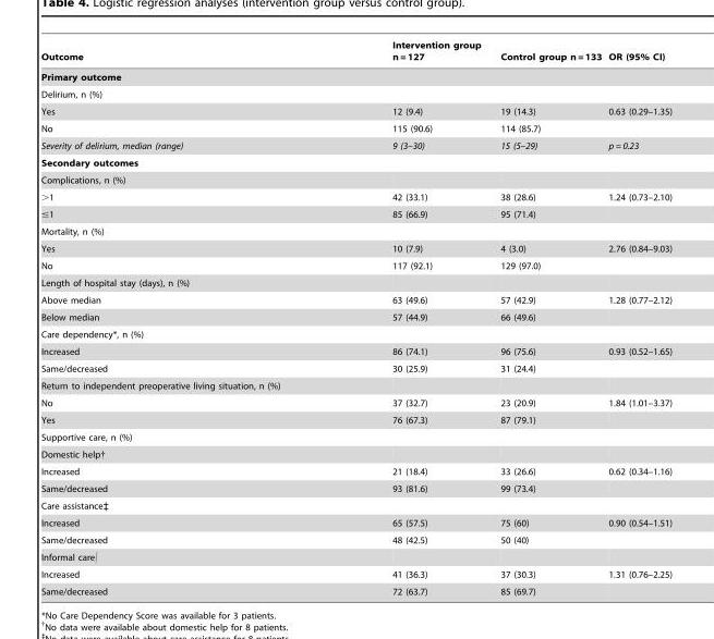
<table><thead><tr><td>Outcome</td><td>Intervention group n = 127</td><td>Control group n = 133</td><td>OR (95% CI)</td></tr></thead><tbody><tr><td colspan="4">Primary outcome</td></tr><tr><td colspan="4">Delirium, n (%)</td></tr><tr><td>Yes</td><td>12 (9.4)</td><td>19 (14.3)</td><td>0.63 (0.29–1.35)</td></tr><tr><td>No</td><td>115 (90.6)</td><td>114 (85.7)</td><td></td></tr><tr><td>Severity of delirium, median (range)</td><td>9 (3–30)</td><td>15 (5–29)</td><td>p = 0.23</td></tr><tr><td colspan="4">Secondary outcomes</td></tr><tr><td colspan="4">Complications, n (%)</td></tr><tr><td>&gt;1</td><td>42 (33.1)</td><td>38 (28.6)</td><td>1.24 (0.73–2.10)</td></tr><tr><td>≤1</td><td>85 (66.9)</td><td>95 (71.4)</td><td></td></tr><tr><td colspan="4">Mortality, n (%)</td></tr><tr><td>Yes</td><td>10 (7.9)</td><td>4 (3.0)</td><td>2.76 (0.84–9.03)</td></tr><tr><td>No</td><td>117 (92.1)</td><td>129 (97.0)</td><td></td></tr><tr><td colspan="4">Length of hospital stay (days), n (%)</td></tr><tr><td>Above median</td><td>63 (49.6)</td><td>57 (42.9)</td><td>1.28 (0.77–2.12)</td></tr><tr><td>Below median</td><td>57 (44.9)</td><td>66 (49.6)</td><td></td></tr><tr><td colspan="4">Care dependency*, n (%)</td></tr><tr><td>Increased</td><td>86 (74.1)</td><td>96 (75.6)</td><td>0.93 (0.52–1.65)</td></tr><tr><td>Same/decreased</td><td>30 (25.9)</td><td>31 (24.4)</td><td></td></tr><tr><td colspan="4">Return to independent preoperative living situation, n (%)</td></tr><tr><td>No</td><td>37 (32.7)</td><td>23 (20.9)</td><td>1.84 (1.01–3.37)</td></tr><tr><td>Yes</td><td>76 (67.3)</td><td>87 (79.1)</td><td></td></tr><tr><td colspan="4">Supportive care, n (%)</td></tr><tr><td colspan="4">Domestic help†</td></tr><tr><td>Increased</td><td>21 (18.4)</td><td>33 (26.6)</td><td>0.62 (0.34–1.16)</td></tr><tr><td>Same/decreased</td><td>93 (81.6)</td><td>99 (73.4)</td><td></td></tr><tr><td colspan="4">Care assistance‡</td></tr><tr><td>Increased</td><td>65 (57.5)</td><td>75 (60)</td><td>0.90 (0.54–1.51)</td></tr><tr><td>Same/decreased</td><td>48 (42.5)</td><td>50 (40)</td><td></td></tr><tr><td colspan="4">Informal care∫</td></tr><tr><td>Increased</td><td>41 (36.3)</td><td>37 (30.3)</td><td>1.31 (0.76–2.25)</td></tr><tr><td>Same/decreased</td><td>72 (63.7)</td><td>85 (69.7)</td><td></td></tr></tbody></table>